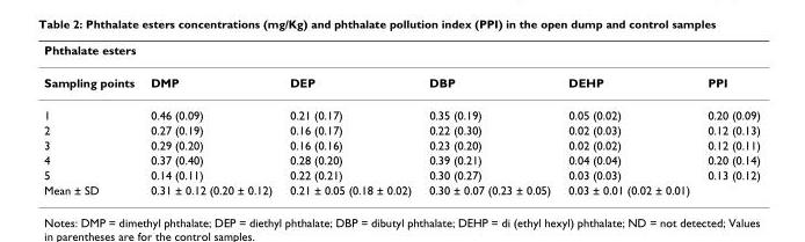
<table><thead><tr><td colspan="6">Phthalate esters</td></tr><tr><td>Sampling points</td><td>DMP</td><td>DEP</td><td>DBP</td><td>DEHP</td><td>PPI</td></tr></thead><tbody><tr><td>1</td><td>0.46 (0.09)</td><td>0.21 (0.17)</td><td>0.35 (0.19)</td><td>0.05 (0.02)</td><td>0.20 (0.09)</td></tr><tr><td>2</td><td>0.27 (0.19)</td><td>0.16 (0.17)</td><td>0.22 (0.30)</td><td>0.02 (0.03)</td><td>0.12 (0.13)</td></tr><tr><td>3</td><td>0.29 (0.20)</td><td>0.16 (0.16)</td><td>0.23 (0.20)</td><td>0.02 (0.02)</td><td>0.12 (0.11)</td></tr><tr><td>4</td><td>0.37 (0.40)</td><td>0.28 (0.20)</td><td>0.39 (0.21)</td><td>0.04 (0.04)</td><td>0.20 (0.14)</td></tr><tr><td>5</td><td>0.14 (0.11)</td><td>0.22 (0.21)</td><td>0.30 (0.27)</td><td>0.03 (0.03)</td><td>0.13 (0.12)</td></tr><tr><td>Mean ± SD</td><td>0.31 ± 0.12 (0.20 ± 0.12)</td><td>0.21 ± 0.05 (0.18 ± 0.02)</td><td>0.30 ± 0.07 (0.23 ± 0.05)</td><td>0.03 ± 0.01 (0.02 ± 0.01)</td><td></td></tr></tbody></table>